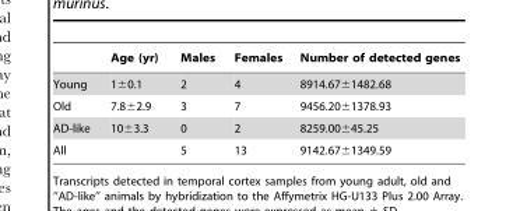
<table><thead><tr><td></td><td>Age (yr)</td><td>Males</td><td>Females</td><td>Number of detected genes</td></tr></thead><tbody><tr><td>Young</td><td>1±0.1</td><td>2</td><td>4</td><td>8914.67±1482.68</td></tr><tr><td>Old</td><td>7.8±2.9</td><td>3</td><td>7</td><td>9456.20±1378.93</td></tr><tr><td>AD-like</td><td>10±3.3</td><td>0</td><td>2</td><td>8259.00±45.25</td></tr><tr><td>All</td><td></td><td>5</td><td>13</td><td>9142.67±1349.59</td></tr></tbody></table>